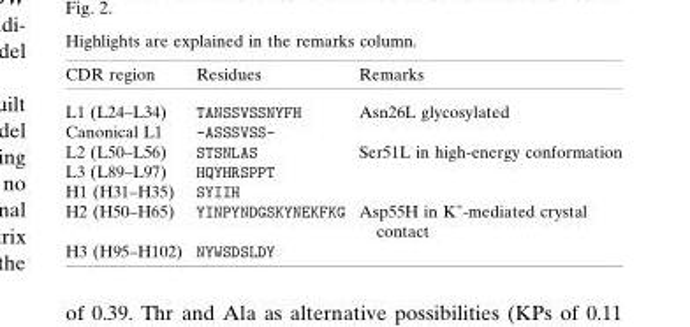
<table><thead><tr><td>CDR region</td><td>Residues</td><td>Remarks</td></tr></thead><tbody><tr><td>L1 (L24–L34)</td><td>TANSSVSSNYFH</td><td>Asn26L glycosylated</td></tr><tr><td>Canonical L1</td><td>-ASSSVSS-</td><td></td></tr><tr><td>L2 (L50–L56)</td><td>STSNLAS</td><td>Ser51L in high-energy conformation</td></tr><tr><td>L3 (L89–L97)</td><td>HQYHRSPPT</td><td></td></tr><tr><td>H1 (H31–H35)</td><td>SYIIH</td><td></td></tr><tr><td>H2 (H50–H65)</td><td>YINPYNDGSKYNEKFKG</td><td>Asp55H in K<sup>+</sup>-mediated crystal contact</td></tr><tr><td>H3 (H95–H102)</td><td>NYWSDSLDY</td><td></td></tr></tbody></table>